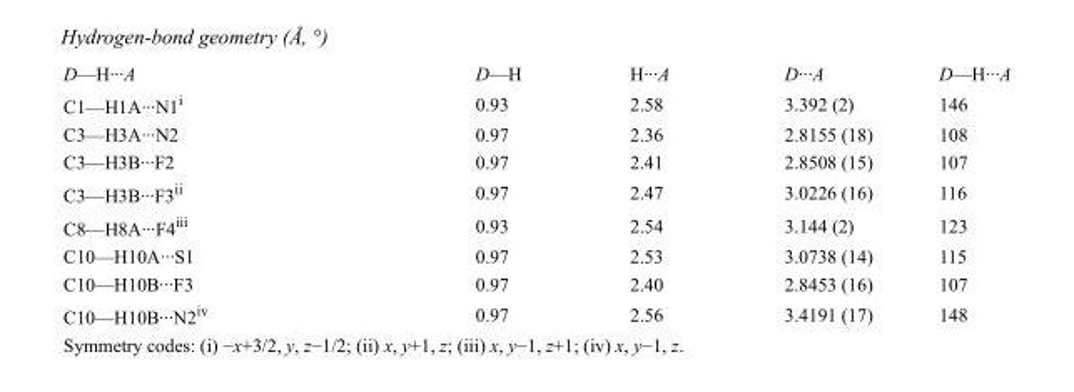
<table><tbody><tr><td>D—H···A</td><td>D—H</td><td>H···A</td><td>D···A</td><td>D—H···A</td></tr><tr><td>C1—H1A···N1<sup>i</sup></td><td>0.93</td><td>2.58</td><td>3.392 (2)</td><td>146</td></tr><tr><td>C3—H3A···N2</td><td>0.97</td><td>2.36</td><td>2.8155 (18)</td><td>108</td></tr><tr><td>C3—H3B···F2</td><td>0.97</td><td>2.41</td><td>2.8508 (15)</td><td>107</td></tr><tr><td>C3—H3B···F3<sup>ii</sup></td><td>0.97</td><td>2.47</td><td>3.0226 (16)</td><td>116</td></tr><tr><td>C8—H8A···F4<sup>iii</sup></td><td>0.93</td><td>2.54</td><td>3.144 (2)</td><td>123</td></tr><tr><td>C10—H10A···S1</td><td>0.97</td><td>2.53</td><td>3.0738 (14)</td><td>115</td></tr><tr><td>C10—H10B···F3</td><td>0.97</td><td>2.40</td><td>2.8453 (16)</td><td>107</td></tr><tr><td>C10—H10B···N2<sup>iv</sup></td><td>0.97</td><td>2.56</td><td>3.4191 (17)</td><td>148</td></tr></tbody></table>